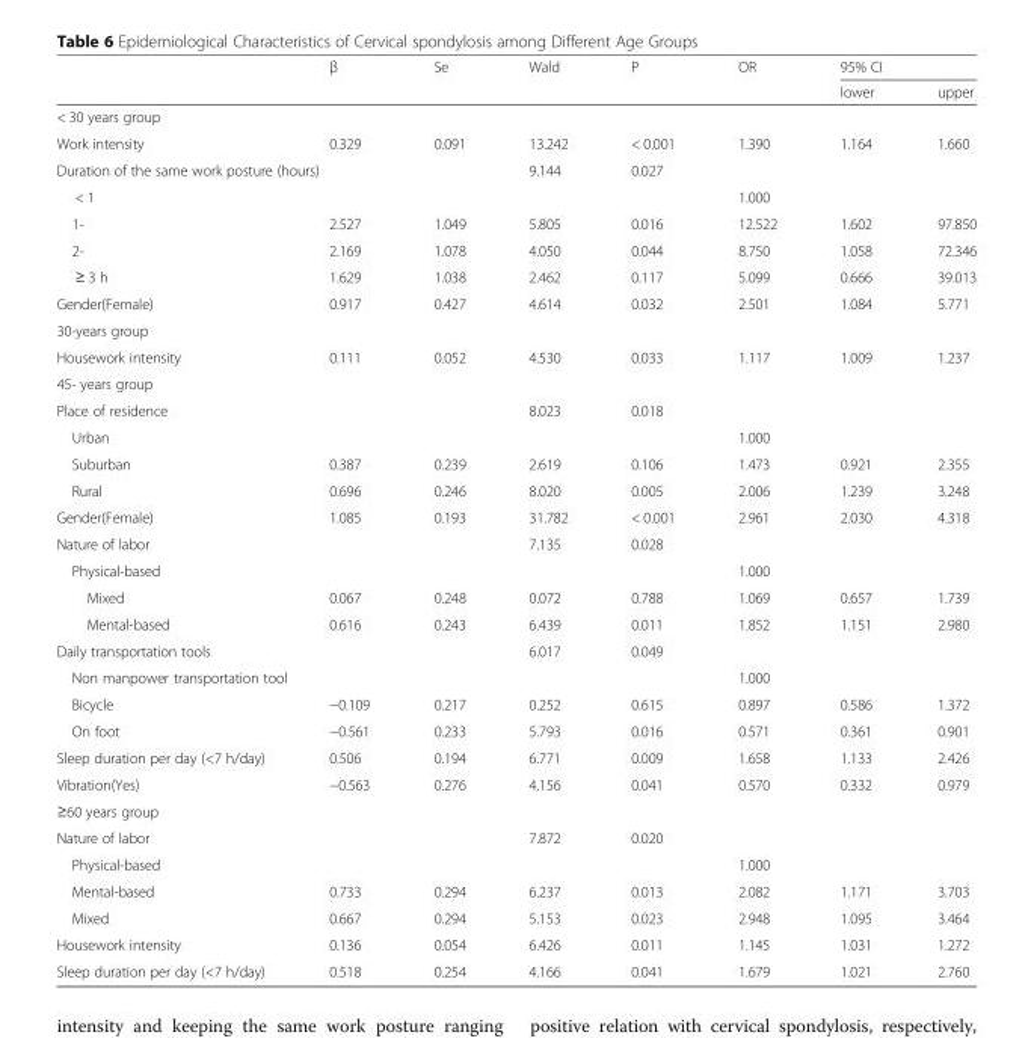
<table><thead><tr><td rowspan="2"></td><td rowspan="2">β</td><td rowspan="2">Se</td><td rowspan="2">Wald</td><td rowspan="2">P</td><td rowspan="2">OR</td><td colspan="2">95% CI</td></tr><tr><td>lower</td><td>upper</td></tr></thead><tbody><tr><td colspan="8">&lt; 30 years group</td></tr><tr><td>Work intensity</td><td>0.329</td><td>0.091</td><td>13.242</td><td>&lt; 0.001</td><td>1.390</td><td>1.164</td><td>1.660</td></tr><tr><td colspan="2">Duration of the same work posture (hours)</td><td></td><td>9.144</td><td>0.027</td><td></td><td></td><td></td></tr><tr><td>&lt; 1</td><td></td><td></td><td></td><td></td><td>1.000</td><td></td><td></td></tr><tr><td>1-</td><td>2.527</td><td>1.049</td><td>5.805</td><td>0.016</td><td>12.522</td><td>1.602</td><td>97.850</td></tr><tr><td>2-</td><td>2.169</td><td>1.078</td><td>4.050</td><td>0.044</td><td>8.750</td><td>1.058</td><td>72.346</td></tr><tr><td>≥ 3 h</td><td>1.629</td><td>1.038</td><td>2.462</td><td>0.117</td><td>5.099</td><td>0.666</td><td>39.013</td></tr><tr><td>Gender(Female)</td><td>0.917</td><td>0.427</td><td>4.614</td><td>0.032</td><td>2.501</td><td>1.084</td><td>5.771</td></tr><tr><td colspan="8">30-years group</td></tr><tr><td>Housework intensity</td><td>0.111</td><td>0.052</td><td>4.530</td><td>0.033</td><td>1.117</td><td>1.009</td><td>1.237</td></tr><tr><td colspan="8">45- years group</td></tr><tr><td>Place of residence</td><td></td><td></td><td>8.023</td><td>0.018</td><td></td><td></td><td></td></tr><tr><td>Urban</td><td></td><td></td><td></td><td></td><td>1.000</td><td></td><td></td></tr><tr><td>Suburban</td><td>0.387</td><td>0.239</td><td>2.619</td><td>0.106</td><td>1.473</td><td>0.921</td><td>2.355</td></tr><tr><td>Rural</td><td>0.696</td><td>0.246</td><td>8.020</td><td>0.005</td><td>2.006</td><td>1.239</td><td>3.248</td></tr><tr><td>Gender(Female)</td><td>1.085</td><td>0.193</td><td>31.782</td><td>&lt; 0.001</td><td>2.961</td><td>2.030</td><td>4.318</td></tr><tr><td>Nature of labor</td><td></td><td></td><td>7.135</td><td>0.028</td><td></td><td></td><td></td></tr><tr><td>Physical-based</td><td></td><td></td><td></td><td></td><td>1.000</td><td></td><td></td></tr><tr><td>Mixed</td><td>0.067</td><td>0.248</td><td>0.072</td><td>0.788</td><td>1.069</td><td>0.657</td><td>1.739</td></tr><tr><td>Mental-based</td><td>0.616</td><td>0.243</td><td>6.439</td><td>0.011</td><td>1.852</td><td>1.151</td><td>2.980</td></tr><tr><td colspan="3">Daily transportation tools</td><td>6.017</td><td>0.049</td><td></td><td></td><td></td></tr><tr><td colspan="3">Non manpower transportation tool</td><td></td><td></td><td>1.000</td><td></td><td></td></tr><tr><td>Bicycle</td><td>−0.109</td><td>0.217</td><td>0.252</td><td>0.615</td><td>0.897</td><td>0.586</td><td>1.372</td></tr><tr><td>On foot</td><td>−0.561</td><td>0.233</td><td>5.793</td><td>0.016</td><td>0.571</td><td>0.361</td><td>0.901</td></tr><tr><td>Sleep duration per day (&lt;7 h/day)</td><td>0.506</td><td>0.194</td><td>6.771</td><td>0.009</td><td>1.658</td><td>1.133</td><td>2.426</td></tr><tr><td>Vibration(Yes)</td><td>−0.563</td><td>0.276</td><td>4.156</td><td>0.041</td><td>0.570</td><td>0.332</td><td>0.979</td></tr><tr><td colspan="8">≥60 years group</td></tr><tr><td>Nature of labor</td><td></td><td></td><td>7.872</td><td>0.020</td><td></td><td></td><td></td></tr><tr><td>Physical-based</td><td></td><td></td><td></td><td></td><td>1.000</td><td></td><td></td></tr><tr><td>Mental-based</td><td>0.733</td><td>0.294</td><td>6.237</td><td>0.013</td><td>2.082</td><td>1.171</td><td>3.703</td></tr><tr><td>Mixed</td><td>0.667</td><td>0.294</td><td>5.153</td><td>0.023</td><td>2.948</td><td>1.095</td><td>3.464</td></tr><tr><td>Housework intensity</td><td>0.136</td><td>0.054</td><td>6.426</td><td>0.011</td><td>1.145</td><td>1.031</td><td>1.272</td></tr><tr><td>Sleep duration per day (&lt;7 h/day)</td><td>0.518</td><td>0.254</td><td>4.166</td><td>0.041</td><td>1.679</td><td>1.021</td><td>2.760</td></tr></tbody></table>